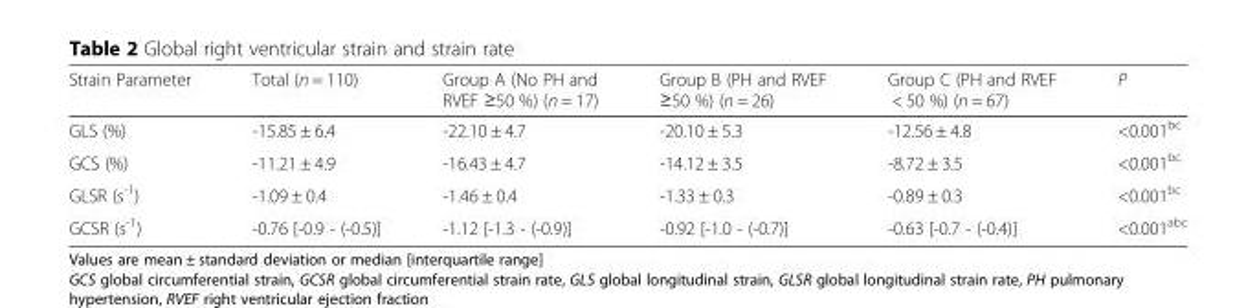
<table><thead><tr><td>Strain Parameter</td><td>Total (n = 110)</td><td>Group A (No PH and RVEF ≥50 %) (n = 17)</td><td>Group B (PH and RVEF ≥50 %) (n = 26)</td><td>Group C (PH and RVEF &lt; 50 %) (n = 67)</td><td>P</td></tr></thead><tbody><tr><td>GLS (%)</td><td>-15.85 ± 6.4</td><td>-22.10 ± 4.7</td><td>-20.10 ± 5.3</td><td>-12.56 ± 4.8</td><td>&lt;0.001<sup>bc</sup></td></tr><tr><td>GCS (%)</td><td>-11.21 ± 4.9</td><td>-16.43 ± 4.7</td><td>-14.12 ± 3.5</td><td>-8.72 ± 3.5</td><td>&lt;0.001<sup>bc</sup></td></tr><tr><td>GLSR (s<sup>-1</sup>)</td><td>-1.09 ± 0.4</td><td>-1.46 ± 0.4</td><td>-1.33 ± 0.3</td><td>-0.89 ± 0.3</td><td>&lt;0.001<sup>bc</sup></td></tr><tr><td>GCSR (s<sup>-1</sup>)</td><td>-0.76 [-0.9 - (-0.5)]</td><td>-1.12 [-1.3 - (-0.9)]</td><td>-0.92 [-1.0 - (-0.7)]</td><td>-0.63 [-0.7 - (-0.4)]</td><td>&lt;0.001<sup>abc</sup></td></tr></tbody></table>